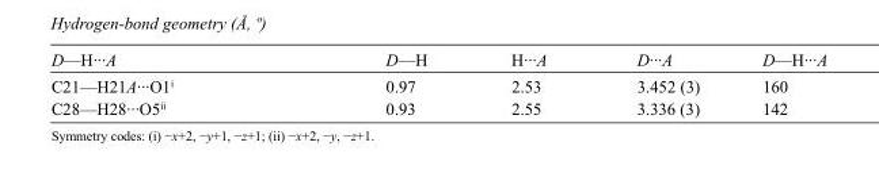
<table><tbody><tr><td>D—H···A</td><td>D—H</td><td>H···A</td><td>D···A</td><td>D—H···A</td></tr><tr><td>C21—H21A···O1<sup>i</sup></td><td>0.97</td><td>2.53</td><td>3.452 (3)</td><td>160</td></tr><tr><td>C28—H28···O5<sup>ii</sup></td><td>0.93</td><td>2.55</td><td>3.336 (3)</td><td>142</td></tr></tbody></table>